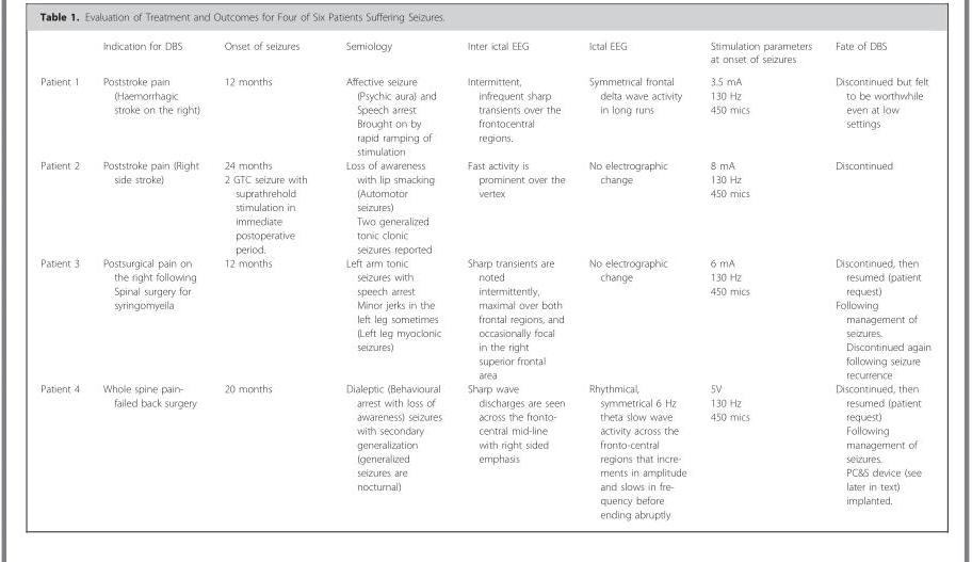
<table><thead><tr><td></td><td>Indication for DBS</td><td>Onset of seizures</td><td>Semiology</td><td>Inter ictal EEG</td><td>Ictal EEG</td><td>Stimulation parameters at onset of seizures</td><td>Fate of DBS</td></tr></thead><tbody><tr><td>Patient 1</td><td>Poststroke pain (Haemorrhagic stroke on the right)</td><td>12 months</td><td>Affective seizure (Psychic aura) and Speech arrest Brought on by rapid ramping of stimulation</td><td>Intermittent, infrequent sharp transients over the frontocentral regions.</td><td>Symmetrical frontal delta wave activity in long runs</td><td>3.5 mA 130 Hz 450 mics</td><td>Discontinued but felt to be worthwhile even at low settings</td></tr><tr><td>Patient 2</td><td>Poststroke pain (Right side stroke)</td><td>24 months 2 GTC seizure with suprathrehold stimulation in immediate postoperative period.</td><td>Loss of awareness with lip smacking (Automotor seizures) Two generalized tonic clonic seizures reported</td><td>Fast activity is prominent over the vertex</td><td>No electrographic change</td><td>8 mA 130 Hz 450 mics</td><td>Discontinued</td></tr><tr><td>Patient 3</td><td>Postsurgical pain on the right following Spinal surgery for syringomyeila</td><td>12 months</td><td>Left arm tonic seizures with speech arrest Minor jerks in the left leg sometimes (Left leg myoclonic seizures)</td><td>Sharp transients are noted intermittently, maximal over both frontal regions, and occasionally focal in the right superior frontal area</td><td>No electrographic change</td><td>6 mA 130 Hz 450 mics</td><td>Discontinued, then resumed (patient request) Following management of seizures. Discontinued again following seizure recurrence</td></tr><tr><td>Patient 4</td><td>Whole spine pain- failed back surgery</td><td>20 months</td><td>Dialeptic (Behavioural arrest with loss of awareness) seizures with secondary generalization (generalized seizures are nocturnal)</td><td>Sharp wave discharges are seen across the fronto- central mid-line with right sided emphasis</td><td>Rhythmical, symmetrical 6 Hz theta slow wave activity across the fronto-central regions that incre- ments in amplitude and slows in fre- quency before ending abruptly</td><td>5V 130 Hz 450 mics</td><td>Discontinued, then resumed (patient request) Following management of seizures. PC&amp;S device (see later in text) implanted.</td></tr></tbody></table>